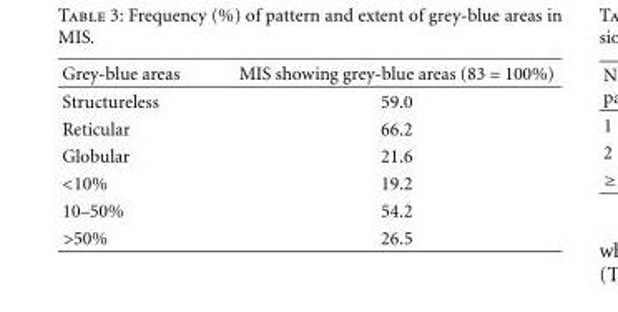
<table><thead><tr><td>Grey-blue areas</td><td>MIS showing grey-blue areas (83 = 100%)</td></tr></thead><tbody><tr><td>Structureless</td><td>59.0</td></tr><tr><td>Reticular</td><td>66.2</td></tr><tr><td>Globular</td><td>21.6</td></tr><tr><td>&lt;10%</td><td>19.2</td></tr><tr><td>10–50%</td><td>54.2</td></tr><tr><td>&gt;50%</td><td>26.5</td></tr></tbody></table>